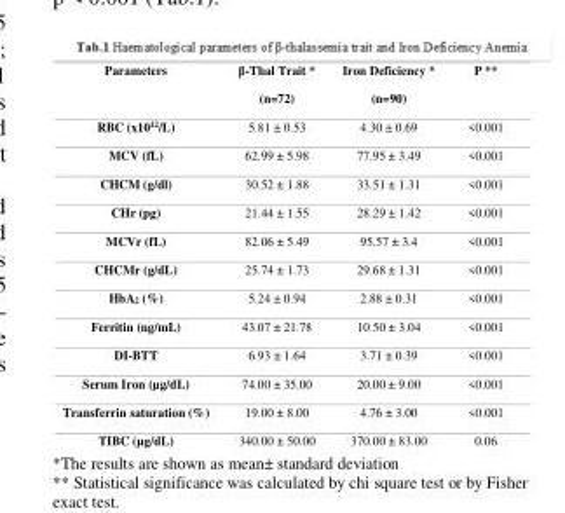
<table><thead><tr><td>Parameters</td><td>β-Thal Trait * (n=72)</td><td>Iron Deficiency * (n=90)</td><td>P **</td></tr></thead><tbody><tr><td>RBC (x10<sup>12</sup>/L)</td><td>5.81 ± 0.53</td><td>4.30 ± 0.69</td><td>&lt;0.001</td></tr><tr><td>MCV (fL)</td><td>62.99 ± 5.98</td><td>77.95 ± 3.49</td><td>&lt;0.001</td></tr><tr><td>CHCM (g/dl)</td><td>30.52 ± 1.88</td><td>33.51 ± 1.31</td><td>&lt;0.001</td></tr><tr><td>CHr (pg)</td><td>21.44 ± 1.55</td><td>28.29 ± 1.42</td><td>&lt;0.001</td></tr><tr><td>MCVr (fL)</td><td>82.06 ± 5.49</td><td>95.57 ± 3.4</td><td>&lt;0.001</td></tr><tr><td>CHCMr (g/dL)</td><td>25.74 ± 1.73</td><td>29.68 ± 1.31</td><td>&lt;0.001</td></tr><tr><td>HbA<sub>2</sub> (%)</td><td>5.24 ± 0.94</td><td>2.88 ± 0.31</td><td>&lt;0.001</td></tr><tr><td>Ferritin (ng/mL)</td><td>43.07 ± 21.78</td><td>10.50 ± 3.04</td><td>&lt;0.001</td></tr><tr><td>DI-BTT</td><td>6.93 ± 1.64</td><td>3.71 ± 0.39</td><td>&lt;0.001</td></tr><tr><td>Serum Iron (µg/dL)</td><td>74.00 ± 35.00</td><td>20.00 ± 9.00</td><td>&lt;0.001</td></tr><tr><td>Transferrin saturation (%)</td><td>19.00 ± 8.00</td><td>4.76 ± 3.00</td><td>&lt;0.001</td></tr><tr><td>TIBC (µg/dL)</td><td>340.00 ± 50.00</td><td>370.00 ± 83.00</td><td>0.06</td></tr></tbody></table>